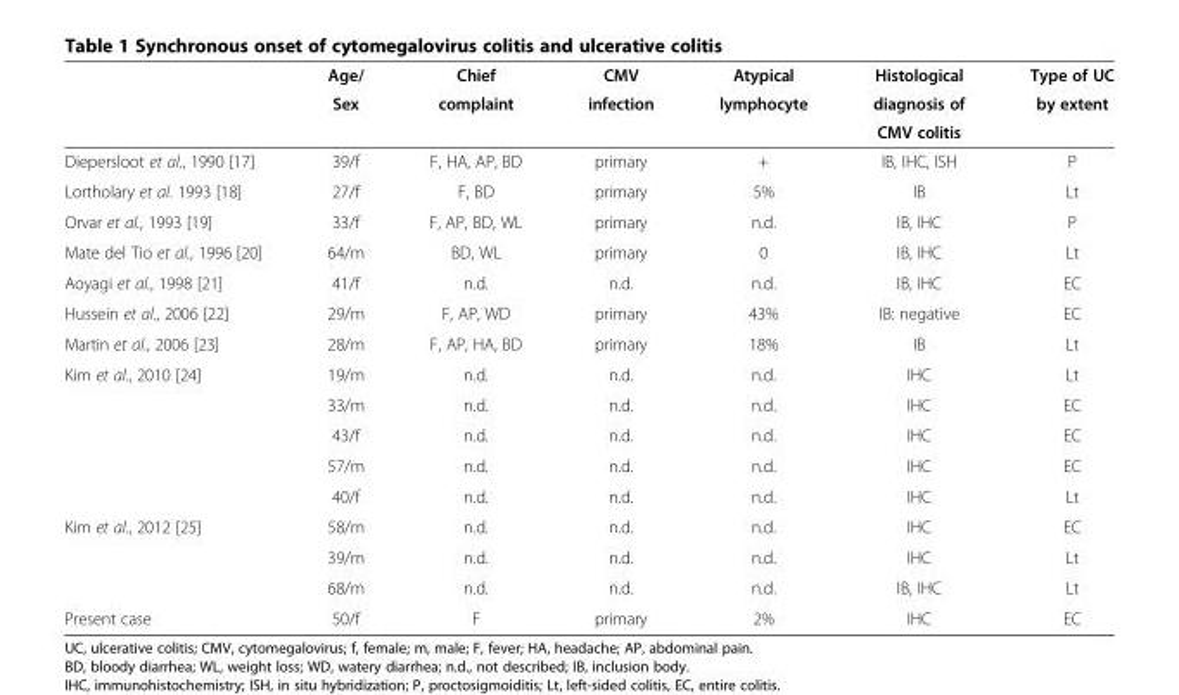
<table><thead><tr><td rowspan="3"></td><td rowspan="3">Age/ Sex</td><td rowspan="3">Chief complaint</td><td rowspan="3">CMV infection</td><td rowspan="3">Atypical lymphocyte</td><td rowspan="3">Histological diagnosis of CMV colitis</td><td rowspan="3">Type of UC by extent</td></tr><tr></tr><tr></tr></thead><tbody><tr><td>Diepersloot et al., 1990 [17]</td><td>39/f</td><td>F, HA, AP, BD</td><td>primary</td><td>+</td><td>IB, IHC, ISH</td><td>P</td></tr><tr><td>Lortholary et al. 1993 [18]</td><td>27/f</td><td>F, BD</td><td>primary</td><td>5%</td><td>IB</td><td>Lt</td></tr><tr><td>Orvar et al., 1993 [19]</td><td>33/f</td><td>F, AP, BD, WL</td><td>primary</td><td>n.d.</td><td>IB, IHC</td><td>P</td></tr><tr><td>Mate del Tio et al., 1996 [20]</td><td>64/m</td><td>BD, WL</td><td>primary</td><td>0</td><td>IB, IHC</td><td>Lt</td></tr><tr><td>Aoyagi et al., 1998 [21]</td><td>41/f</td><td>n.d.</td><td>n.d.</td><td>n.d.</td><td>IB, IHC</td><td>EC</td></tr><tr><td>Hussein et al., 2006 [22]</td><td>29/m</td><td>F, AP, WD</td><td>primary</td><td>43%</td><td>IB: negative</td><td>EC</td></tr><tr><td>Martin et al., 2006 [23]</td><td>28/m</td><td>F, AP, HA, BD</td><td>primary</td><td>18%</td><td>IB</td><td>Lt</td></tr><tr><td rowspan="5">Kim et al., 2010 [24]</td><td>19/m</td><td>n.d.</td><td>n.d.</td><td>n.d.</td><td>IHC</td><td>Lt</td></tr><tr><td>33/m</td><td>n.d.</td><td>n.d.</td><td>n.d.</td><td>IHC</td><td>EC</td></tr><tr><td>43/f</td><td>n.d.</td><td>n.d.</td><td>n.d.</td><td>IHC</td><td>EC</td></tr><tr><td>57/m</td><td>n.d.</td><td>n.d.</td><td>n.d.</td><td>IHC</td><td>EC</td></tr><tr><td>40/f</td><td>n.d.</td><td>n.d.</td><td>n.d.</td><td>IHC</td><td>Lt</td></tr><tr><td rowspan="3">Kim et al., 2012 [25]</td><td>58/m</td><td>n.d.</td><td>n.d.</td><td>n.d.</td><td>IHC</td><td>EC</td></tr><tr><td>39/m</td><td>n.d.</td><td>n.d.</td><td>n.d.</td><td>IHC</td><td>Lt</td></tr><tr><td>68/m</td><td>n.d.</td><td>n.d.</td><td>n.d.</td><td>IB, IHC</td><td>Lt</td></tr><tr><td>Present case</td><td>50/f</td><td>F</td><td>primary</td><td>2%</td><td>IHC</td><td>EC</td></tr></tbody></table>